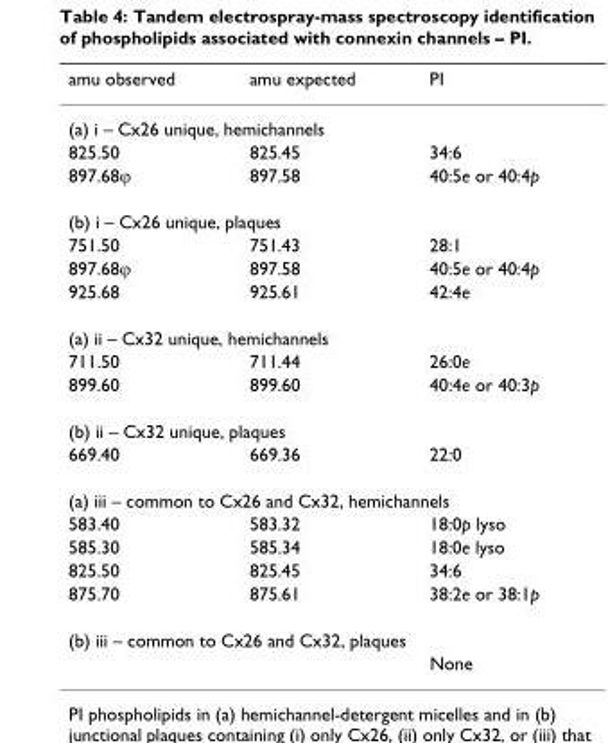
<table><thead><tr><td>amu observed</td><td>amu expected</td><td>PI</td></tr></thead><tbody><tr><td colspan="3">(a) i – Cx26 unique, hemichannels</td></tr><tr><td>825.50</td><td>825.45</td><td>34:6</td></tr><tr><td>897.68ϕ</td><td>897.58</td><td>40:5e or 40:4p</td></tr><tr><td colspan="3">(b) i – Cx26 unique, plaques</td></tr><tr><td>751.50</td><td>751.43</td><td>28:1</td></tr><tr><td>897.68ϕ</td><td>897.58</td><td>40:5e or 40:4p</td></tr><tr><td>925.68</td><td>925.61</td><td>42:4e</td></tr><tr><td colspan="3">(a) ii – Cx32 unique, hemichannels</td></tr><tr><td>711.50</td><td>711.44</td><td>26:0e</td></tr><tr><td>899.60</td><td>899.60</td><td>40:4e or 40:3p</td></tr><tr><td colspan="3">(b) ii – Cx32 unique, plaques</td></tr><tr><td>669.40</td><td>669.36</td><td>22:0</td></tr><tr><td colspan="3">(a) iii – common to Cx26 and Cx32, hemichannels</td></tr><tr><td>583.40</td><td>583.32</td><td>18:0p lyso</td></tr><tr><td>585.30</td><td>585.34</td><td>18:0e lyso</td></tr><tr><td>825.50</td><td>825.45</td><td>34:6</td></tr><tr><td>875.70</td><td>875.61</td><td>38:2e or 38:1p</td></tr><tr><td colspan="3">(b) iii – common to Cx26 and Cx32, plaques</td></tr><tr><td></td><td></td><td>None</td></tr></tbody></table>